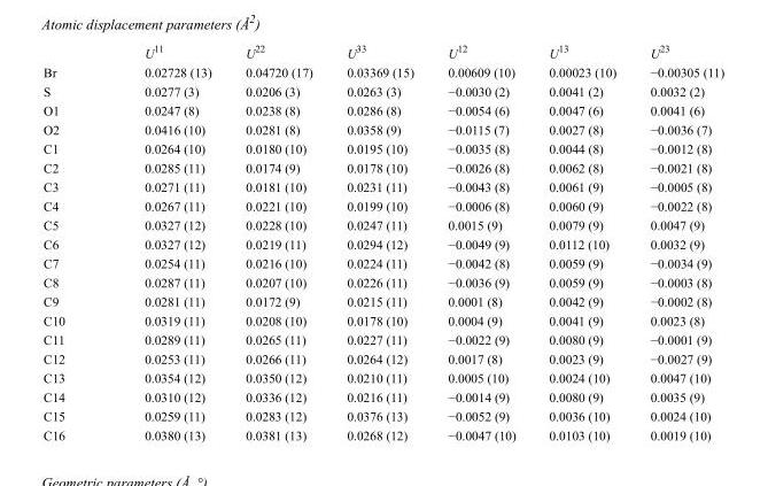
<table><thead><tr><td></td><td>U<sup>11</sup></td><td>U<sup>22</sup></td><td>U<sup>33</sup></td><td>U<sup>12</sup></td><td>U<sup>13</sup></td><td>U<sup>23</sup></td></tr></thead><tbody><tr><td>Br</td><td>0.02728 (13)</td><td>0.04720 (17)</td><td>0.03369 (15)</td><td>0.00609 (10)</td><td>0.00023 (10)</td><td>−0.00305 (11)</td></tr><tr><td>S</td><td>0.0277 (3)</td><td>0.0206 (3)</td><td>0.0263 (3)</td><td>−0.0030 (2)</td><td>0.0041 (2)</td><td>0.0032 (2)</td></tr><tr><td>O1</td><td>0.0247 (8)</td><td>0.0238 (8)</td><td>0.0286 (8)</td><td>−0.0054 (6)</td><td>0.0047 (6)</td><td>0.0041 (6)</td></tr><tr><td>O2</td><td>0.0416 (10)</td><td>0.0281 (8)</td><td>0.0358 (9)</td><td>−0.0115 (7)</td><td>0.0027 (8)</td><td>−0.0036 (7)</td></tr><tr><td>C1</td><td>0.0264 (10)</td><td>0.0180 (10)</td><td>0.0195 (10)</td><td>−0.0035 (8)</td><td>0.0044 (8)</td><td>−0.0012 (8)</td></tr><tr><td>C2</td><td>0.0285 (11)</td><td>0.0174 (9)</td><td>0.0178 (10)</td><td>−0.0026 (8)</td><td>0.0062 (8)</td><td>−0.0021 (8)</td></tr><tr><td>C3</td><td>0.0271 (11)</td><td>0.0181 (10)</td><td>0.0231 (11)</td><td>−0.0043 (8)</td><td>0.0061 (9)</td><td>−0.0005 (8)</td></tr><tr><td>C4</td><td>0.0267 (11)</td><td>0.0221 (10)</td><td>0.0199 (10)</td><td>−0.0006 (8)</td><td>0.0060 (9)</td><td>−0.0022 (8)</td></tr><tr><td>C5</td><td>0.0327 (12)</td><td>0.0228 (10)</td><td>0.0247 (11)</td><td>0.0015 (9)</td><td>0.0079 (9)</td><td>0.0047 (9)</td></tr><tr><td>C6</td><td>0.0327 (12)</td><td>0.0219 (11)</td><td>0.0294 (12)</td><td>−0.0049 (9)</td><td>0.0112 (10)</td><td>0.0032 (9)</td></tr><tr><td>C7</td><td>0.0254 (11)</td><td>0.0216 (10)</td><td>0.0224 (11)</td><td>−0.0042 (8)</td><td>0.0059 (9)</td><td>−0.0034 (9)</td></tr><tr><td>C8</td><td>0.0287 (11)</td><td>0.0207 (10)</td><td>0.0226 (11)</td><td>−0.0036 (9)</td><td>0.0059 (9)</td><td>−0.0003 (8)</td></tr><tr><td>C9</td><td>0.0281 (11)</td><td>0.0172 (9)</td><td>0.0215 (11)</td><td>0.0001 (8)</td><td>0.0042 (9)</td><td>−0.0002 (8)</td></tr><tr><td>C10</td><td>0.0319 (11)</td><td>0.0208 (10)</td><td>0.0178 (10)</td><td>0.0004 (9)</td><td>0.0041 (9)</td><td>0.0023 (8)</td></tr><tr><td>C11</td><td>0.0289 (11)</td><td>0.0265 (11)</td><td>0.0227 (11)</td><td>−0.0022 (9)</td><td>0.0080 (9)</td><td>−0.0001 (9)</td></tr><tr><td>C12</td><td>0.0253 (11)</td><td>0.0266 (11)</td><td>0.0264 (12)</td><td>0.0017 (8)</td><td>0.0023 (9)</td><td>−0.0027 (9)</td></tr><tr><td>C13</td><td>0.0354 (12)</td><td>0.0350 (12)</td><td>0.0210 (11)</td><td>0.0005 (10)</td><td>0.0024 (10)</td><td>0.0047 (10)</td></tr><tr><td>C14</td><td>0.0310 (12)</td><td>0.0336 (12)</td><td>0.0216 (11)</td><td>−0.0014 (9)</td><td>0.0080 (9)</td><td>0.0035 (9)</td></tr><tr><td>C15</td><td>0.0259 (11)</td><td>0.0283 (12)</td><td>0.0376 (13)</td><td>−0.0052 (9)</td><td>0.0036 (10)</td><td>0.0024 (10)</td></tr><tr><td>C16</td><td>0.0380 (13)</td><td>0.0381 (13)</td><td>0.0268 (12)</td><td>−0.0047 (10)</td><td>0.0103 (10)</td><td>0.0019 (10)</td></tr></tbody></table>